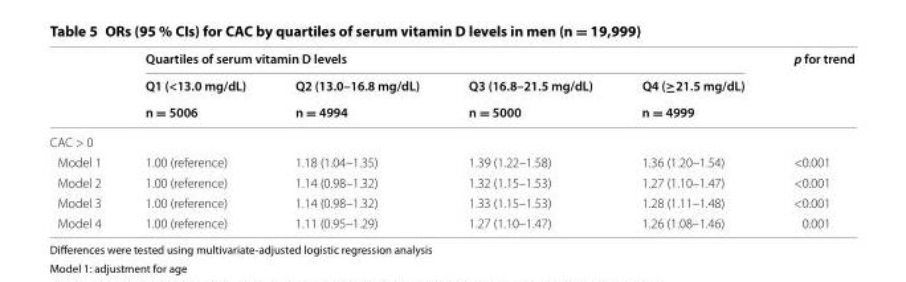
<table><thead><tr><td rowspan="3"></td><td colspan="4">Quartiles of serum vitamin D levels</td><td rowspan="3">p for trend</td></tr><tr><td rowspan="2">Q1 (&lt;13.0 mg/dL) n = 5006</td><td rowspan="2">Q2 (13.0–16.8 mg/dL) n = 4994</td><td rowspan="2">Q3 (16.8–21.5 mg/dL) n = 5000</td><td rowspan="2">Q4 (≥21.5 mg/dL) n = 4999</td></tr><tr></tr></thead><tbody><tr><td colspan="6">CAC &gt; 0</td></tr><tr><td>Model 1</td><td>1.00 (reference)</td><td>1.18 (1.04–1.35)</td><td>1.39 (1.22–1.58)</td><td>1.36 (1.20–1.54)</td><td>&lt;0.001</td></tr><tr><td>Model 2</td><td>1.00 (reference)</td><td>1.14 (0.98–1.32)</td><td>1.32 (1.15–1.53)</td><td>1.27 (1.10–1.47)</td><td>&lt;0.001</td></tr><tr><td>Model 3</td><td>1.00 (reference)</td><td>1.14 (0.98–1.32)</td><td>1.33 (1.15–1.53)</td><td>1.28 (1.11–1.48)</td><td>&lt;0.001</td></tr><tr><td>Model 4</td><td>1.00 (reference)</td><td>1.11 (0.95–1.29)</td><td>1.27 (1.10–1.47)</td><td>1.26 (1.08–1.46)</td><td>0.001</td></tr></tbody></table>